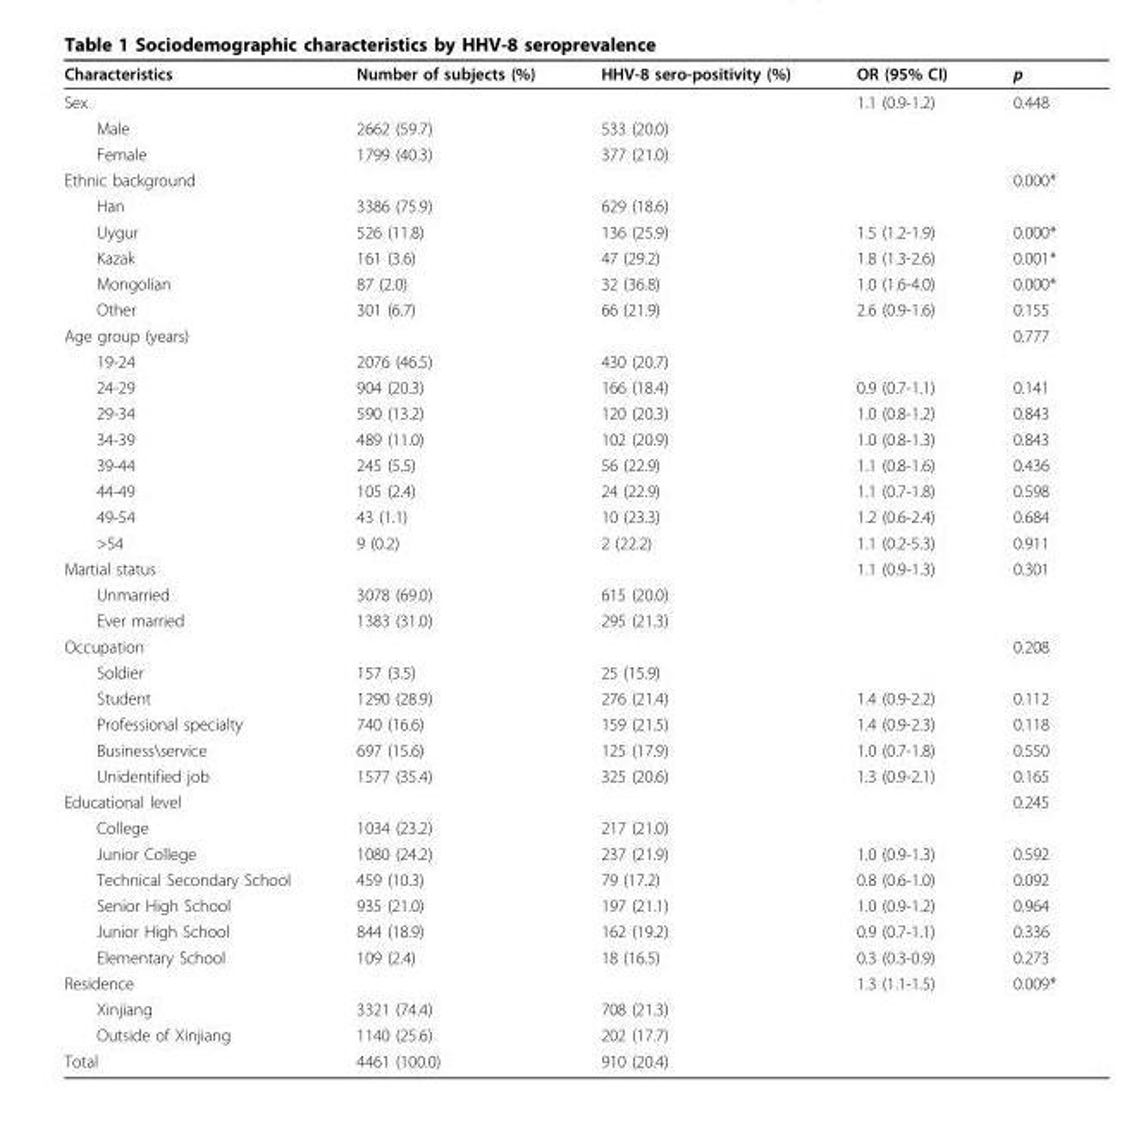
<table><thead><tr><td>Characteristics</td><td>Number of subjects (%)</td><td>HHV-8 sero-positivity (%)</td><td>OR (95% CI)</td><td>p</td></tr></thead><tbody><tr><td>Sex</td><td></td><td></td><td>1.1 (0.9-1.2)</td><td>0.448</td></tr><tr><td>Male</td><td>2662 (59.7)</td><td>533 (20.0)</td><td></td><td></td></tr><tr><td>Female</td><td>1799 (40.3)</td><td>377 (21.0)</td><td></td><td></td></tr><tr><td>Ethnic background</td><td></td><td></td><td></td><td>0.000*</td></tr><tr><td>Han</td><td>3386 (75.9)</td><td>629 (18.6)</td><td></td><td></td></tr><tr><td>Uygur</td><td>526 (11.8)</td><td>136 (25.9)</td><td>1.5 (1.2-1.9)</td><td>0.000*</td></tr><tr><td>Kazak</td><td>161 (3.6)</td><td>47 (29.2)</td><td>1.8 (1.3-2.6)</td><td>0.001*</td></tr><tr><td>Mongolian</td><td>87 (2.0)</td><td>32 (36.8)</td><td>1.0 (1.6-4.0)</td><td>0.000*</td></tr><tr><td>Other</td><td>301 (6.7)</td><td>66 (21.9)</td><td>2.6 (0.9-1.6)</td><td>0.155</td></tr><tr><td>Age group (years)</td><td></td><td></td><td></td><td>0.777</td></tr><tr><td>19-24</td><td>2076 (46.5)</td><td>430 (20.7)</td><td></td><td></td></tr><tr><td>24-29</td><td>904 (20.3)</td><td>166 (18.4)</td><td>0.9 (0.7-1.1)</td><td>0.141</td></tr><tr><td>29-34</td><td>590 (13.2)</td><td>120 (20.3)</td><td>1.0 (0.8-1.2)</td><td>0.843</td></tr><tr><td>34-39</td><td>489 (11.0)</td><td>102 (20.9)</td><td>1.0 (0.8-1.3)</td><td>0.843</td></tr><tr><td>39-44</td><td>245 (5.5)</td><td>56 (22.9)</td><td>1.1 (0.8-1.6)</td><td>0.436</td></tr><tr><td>44-49</td><td>105 (2.4)</td><td>24 (22.9)</td><td>1.1 (0.7-1.8)</td><td>0.598</td></tr><tr><td>49-54</td><td>43 (1.1)</td><td>10 (23.3)</td><td>1.2 (0.6-2.4)</td><td>0.684</td></tr><tr><td>&gt;54</td><td>9 (0.2)</td><td>2 (22.2)</td><td>1.1 (0.2-5.3)</td><td>0.911</td></tr><tr><td>Martial status</td><td></td><td></td><td>1.1 (0.9-1.3)</td><td>0.301</td></tr><tr><td>Unmarried</td><td>3078 (69.0)</td><td>615 (20.0)</td><td></td><td></td></tr><tr><td>Ever married</td><td>1383 (31.0)</td><td>295 (21.3)</td><td></td><td></td></tr><tr><td>Occupation</td><td></td><td></td><td></td><td>0.208</td></tr><tr><td>Soldier</td><td>157 (3.5)</td><td>25 (15.9)</td><td></td><td></td></tr><tr><td>Student</td><td>1290 (28.9)</td><td>276 (21.4)</td><td>1.4 (0.9-2.2)</td><td>0.112</td></tr><tr><td>Professional specialty</td><td>740 (16.6)</td><td>159 (21.5)</td><td>1.4 (0.9-2.3)</td><td>0.118</td></tr><tr><td>Business\service</td><td>697 (15.6)</td><td>125 (17.9)</td><td>1.0 (0.7-1.8)</td><td>0.550</td></tr><tr><td>Unidentified job</td><td>1577 (35.4)</td><td>325 (20.6)</td><td>1.3 (0.9-2.1)</td><td>0.165</td></tr><tr><td>Educational level</td><td></td><td></td><td></td><td>0.245</td></tr><tr><td>College</td><td>1034 (23.2)</td><td>217 (21.0)</td><td></td><td></td></tr><tr><td>Junior College</td><td>1080 (24.2)</td><td>237 (21.9)</td><td>1.0 (0.9-1.3)</td><td>0.592</td></tr><tr><td>Technical Secondary School</td><td>459 (10.3)</td><td>79 (17.2)</td><td>0.8 (0.6-1.0)</td><td>0.092</td></tr><tr><td>Senior High School</td><td>935 (21.0)</td><td>197 (21.1)</td><td>1.0 (0.9-1.2)</td><td>0.964</td></tr><tr><td>Junior High School</td><td>844 (18.9)</td><td>162 (19.2)</td><td>0.9 (0.7-1.1)</td><td>0.336</td></tr><tr><td>Elementary School</td><td>109 (2.4)</td><td>18 (16.5)</td><td>0.3 (0.3-0.9)</td><td>0.273</td></tr><tr><td>Residence</td><td></td><td></td><td>1.3 (1.1-1.5)</td><td>0.009*</td></tr><tr><td>Xinjiang</td><td>3321 (74.4)</td><td>708 (21.3)</td><td></td><td></td></tr><tr><td>Outside of Xinjiang</td><td>1140 (25.6)</td><td>202 (17.7)</td><td></td><td></td></tr><tr><td>Total</td><td>4461 (100.0)</td><td>910 (20.4)</td><td></td><td></td></tr></tbody></table>